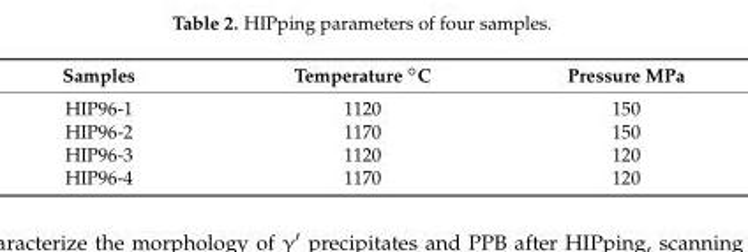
<table><thead><tr><td>Samples</td><td>Temperature ◦C</td><td>Pressure MPa</td></tr></thead><tbody><tr><td>HIP96-1</td><td>1120</td><td>150</td></tr><tr><td>HIP96-2</td><td>1170</td><td>150</td></tr><tr><td>HIP96-3</td><td>1120</td><td>120</td></tr><tr><td>HIP96-4</td><td>1170</td><td>120</td></tr></tbody></table>